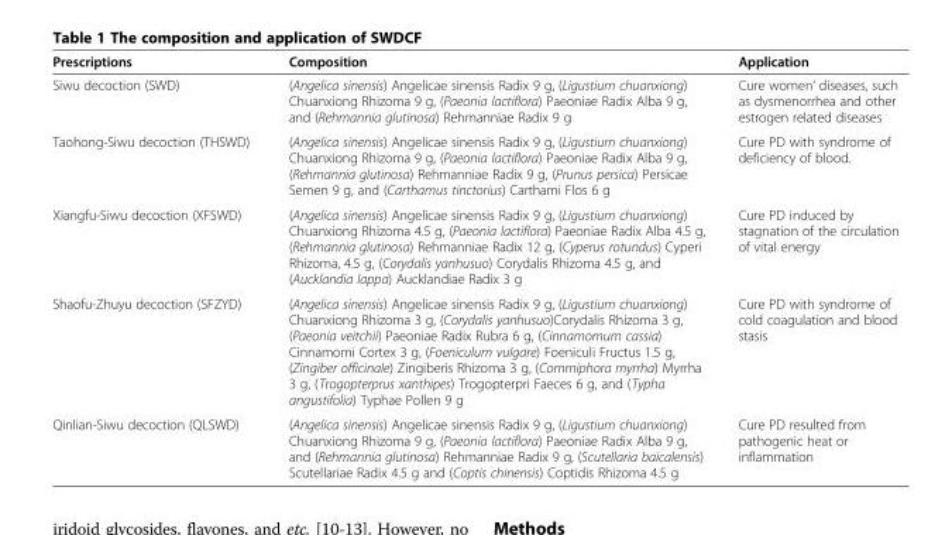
<table><thead><tr><td>Prescriptions</td><td>Composition</td><td>Application</td></tr></thead><tbody><tr><td>Siwu decoction (SWD)</td><td>(Angelica sinensis) Angelicae sinensis Radix 9 g, (Ligustium chuanxiong) Chuanxiong Rhizoma 9 g, (Paeonia lactiflora) Paeoniae Radix Alba 9 g, and (Rehmannia glutinosa) Rehmanniae Radix 9 g</td><td>Cure women’ diseases, such as dysmenorrhea and other estrogen related diseases</td></tr><tr><td>Taohong-Siwu decoction (THSWD)</td><td>(Angelica sinensis) Angelicae sinensis Radix 9 g, (Ligustium chuanxiong) Chuanxiong Rhizoma 9 g, (Paeonia lactiflora) Paeoniae Radix Alba 9 g, (Rehmannia glutinosa) Rehmanniae Radix 9 g, (Prunus persica) Persicae Semen 9 g, and (Carthamus tinctorius) Carthami Flos 6 g</td><td>Cure PD with syndrome of deficiency of blood.</td></tr><tr><td>Xiangfu-Siwu decoction (XFSWD)</td><td>(Angelica sinensis) Angelicae sinensis Radix 9 g, (Ligustium chuanxiong) Chuanxiong Rhizoma 4.5 g, (Paeonia lactiflora) Paeoniae Radix Alba 4.5 g, (Rehmannia glutinosa) Rehmanniae Radix 12 g, (Cyperus rotundus) Cyperi Rhizoma, 4.5 g, (Corydalis yanhusuo) Corydalis Rhizoma 4.5 g, and (Aucklandia lappa) Aucklandiae Radix 3 g</td><td>Cure PD induced by stagnation of the circulation of vital energy</td></tr><tr><td>Shaofu-Zhuyu decoction (SFZYD)</td><td>(Angelica sinensis) Angelicae sinensis Radix 9 g, (Ligustium chuanxiong) Chuanxiong Rhizoma 3 g, (Corydalis yanhusuo)Corydalis Rhizoma 3 g, (Paeonia veitchii) Paeoniae Radix Rubra 6 g, (Cinnamomum cassia) Cinnamomi Cortex 3 g, (Foeniculum vulgare) Foeniculi Fructus 1.5 g, (Zingiber officinale) Zingiberis Rhizoma 3 g, (Commiphora myrrha) Myrrha 3 g, (Trogopterprus xanthipes) Trogopterpri Faeces 6 g, and (Typha angustifolia) Typhae Pollen 9 g</td><td>Cure PD with syndrome of cold coagulation and blood stasis</td></tr><tr><td>Qinlian-Siwu decoction (QLSWD)</td><td>(Angelica sinensis) Angelicae sinensis Radix 9 g, (Ligustium chuanxiong) Chuanxiong Rhizoma 9 g, (Paeonia lactiflora) Paeoniae Radix Alba 9 g, and (Rehmannia glutinosa) Rehmanniae Radix 9 g, (Scutellaria baicalensis) Scutellariae Radix 4.5 g and (Coptis chinensis) Coptidis Rhizoma 4.5 g</td><td>Cure PD resulted from pathogenic heat or inflammation</td></tr></tbody></table>